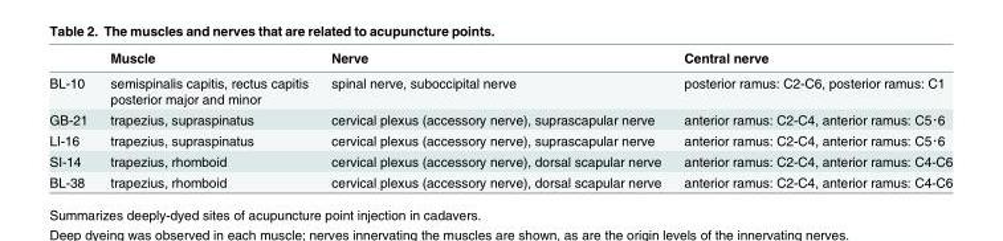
<table><thead><tr><td></td><td>Muscle</td><td>Nerve</td><td>Central nerve</td></tr></thead><tbody><tr><td>BL-10</td><td>semispinalis capitis, rectus capitis posterior major and minor</td><td>spinal nerve, suboccipital nerve</td><td>posterior ramus: C2-C6, posterior ramus: C1</td></tr><tr><td>GB-21</td><td>trapezius, supraspinatus</td><td>cervical plexus (accessory nerve), suprascapular nerve</td><td>anterior ramus: C2-C4, anterior ramus: C5・6</td></tr><tr><td>LI-16</td><td>trapezius, supraspinatus</td><td>cervical plexus (accessory nerve), suprascapular nerve</td><td>anterior ramus: C2-C4, anterior ramus: C5・6</td></tr><tr><td>SI-14</td><td>trapezius, rhomboid</td><td>cervical plexus (accessory nerve), dorsal scapular nerve</td><td>anterior ramus: C2-C4, anterior ramus: C4-C6</td></tr><tr><td>BL-38</td><td>trapezius, rhomboid</td><td>cervical plexus (accessory nerve), dorsal scapular nerve</td><td>anterior ramus: C2-C4, anterior ramus: C4-C6</td></tr></tbody></table>